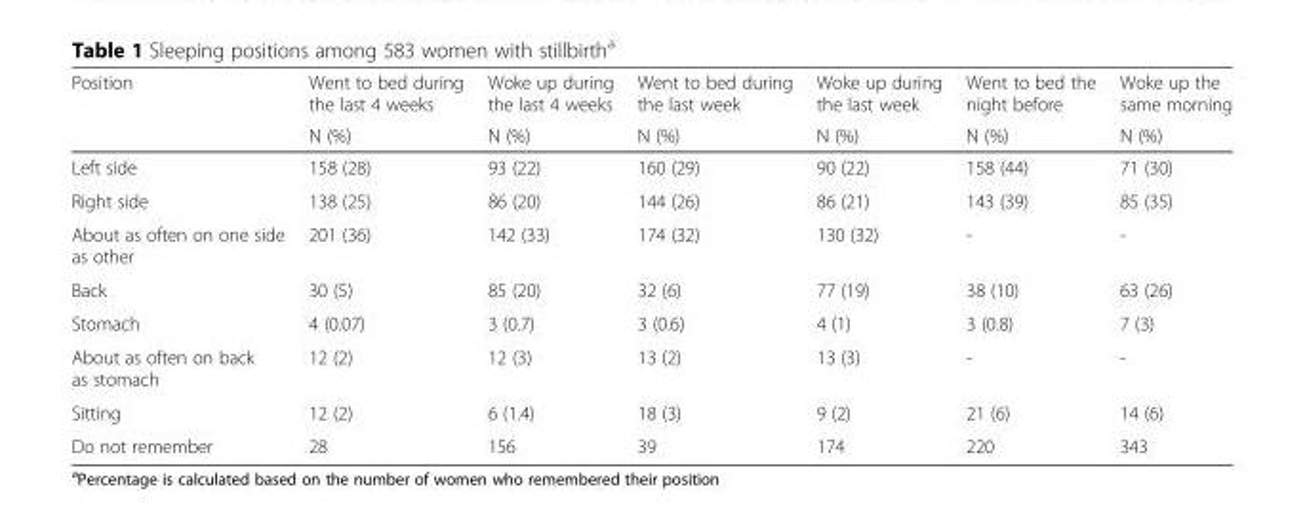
<table><thead><tr><td rowspan="2">Position</td><td rowspan="2">Went to bed during the last 4 weeks N (%)</td><td rowspan="2">Woke up during the last 4 weeks N (%)</td><td rowspan="2">Went to bed during the last week N (%)</td><td rowspan="2">Woke up during the last week N (%)</td><td rowspan="2">Went to bed the night before N (%)</td><td rowspan="2">Woke up the same morning N (%)</td></tr><tr></tr></thead><tbody><tr><td>Left side</td><td>158 (28)</td><td>93 (22)</td><td>160 (29)</td><td>90 (22)</td><td>158 (44)</td><td>71 (30)</td></tr><tr><td>Right side</td><td>138 (25)</td><td>86 (20)</td><td>144 (26)</td><td>86 (21)</td><td>143 (39)</td><td>85 (35)</td></tr><tr><td>About as often on one side as other</td><td>201 (36)</td><td>142 (33)</td><td>174 (32)</td><td>130 (32)</td><td>-</td><td>-</td></tr><tr><td>Back</td><td>30 (5)</td><td>85 (20)</td><td>32 (6)</td><td>77 (19)</td><td>38 (10)</td><td>63 (26)</td></tr><tr><td>Stomach</td><td>4 (0.07)</td><td>3 (0.7)</td><td>3 (0.6)</td><td>4 (1)</td><td>3 (0.8)</td><td>7 (3)</td></tr><tr><td>About as often on back as stomach</td><td>12 (2)</td><td>12 (3)</td><td>13 (2)</td><td>13 (3)</td><td>-</td><td>-</td></tr><tr><td>Sitting</td><td>12 (2)</td><td>6 (1.4)</td><td>18 (3)</td><td>9 (2)</td><td>21 (6)</td><td>14 (6)</td></tr><tr><td>Do not remember</td><td>28</td><td>156</td><td>39</td><td>174</td><td>220</td><td>343</td></tr></tbody></table>